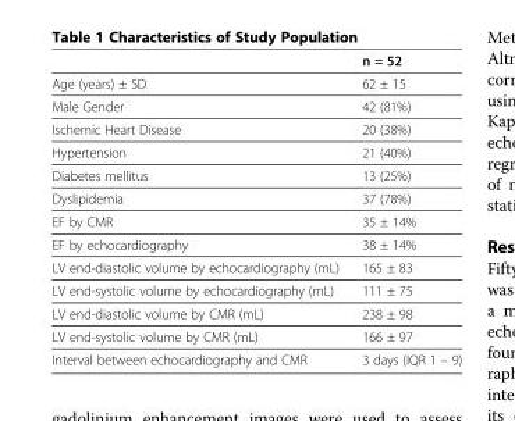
<table><thead><tr><td></td><td>n = 52</td></tr></thead><tbody><tr><td>Age (years) ± SD</td><td>62 ± 15</td></tr><tr><td>Male Gender</td><td>42 (81%)</td></tr><tr><td>Ischemic Heart Disease</td><td>20 (38%)</td></tr><tr><td>Hypertension</td><td>21 (40%)</td></tr><tr><td>Diabetes mellitus</td><td>13 (25%)</td></tr><tr><td>Dyslipidemia</td><td>37 (78%)</td></tr><tr><td>EF by CMR</td><td>35 ± 14%</td></tr><tr><td>EF by echocardiography</td><td>38 ± 14%</td></tr><tr><td>LV end-diastolic volume by echocardiography (mL)</td><td>165 ± 83</td></tr><tr><td>LV end-systolic volume by echocardiography (mL)</td><td>111 ± 75</td></tr><tr><td>LV end-diastolic volume by CMR (mL)</td><td>238 ± 98</td></tr><tr><td>LV end-systolic volume by CMR (mL)</td><td>166 ± 97</td></tr><tr><td>Interval between echocardiography and CMR</td><td>3 days (IQR 1 – 9)</td></tr></tbody></table>